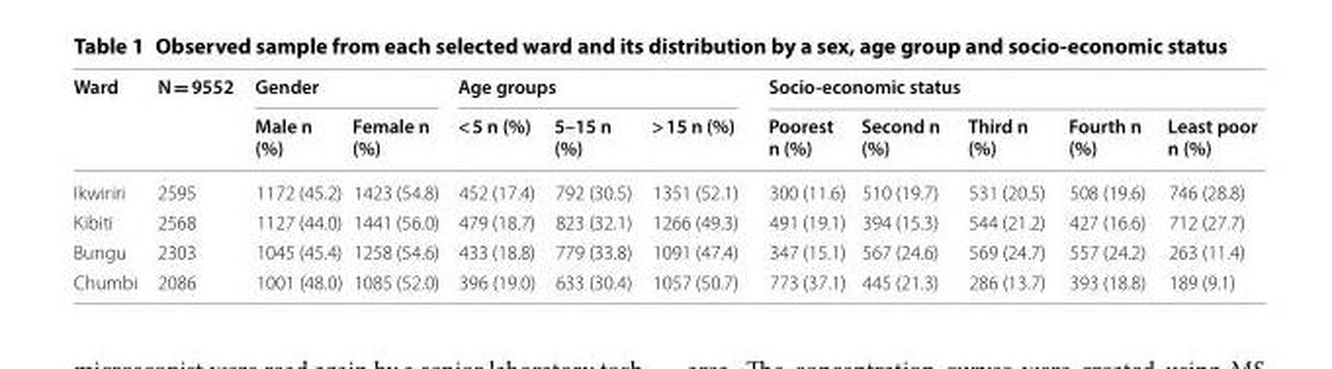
<table><thead><tr><td rowspan="2">Ward</td><td rowspan="2">N = 9552</td><td colspan="2">Gender</td><td colspan="3">Age groups</td><td colspan="5">Socio-economic status</td></tr><tr><td>Male n (%)</td><td>Female n (%)</td><td>&lt; 5 n (%)</td><td>5–15 n (%)</td><td>&gt; 15 n (%)</td><td>Poorest n (%)</td><td>Second n (%)</td><td>Third n (%)</td><td>Fourth n (%)</td><td>Least poor n (%)</td></tr></thead><tbody><tr><td>Ikwiriri</td><td>2595</td><td>1172 (45.2)</td><td>1423 (54.8)</td><td>452 (17.4)</td><td>792 (30.5)</td><td>1351 (52.1)</td><td>300 (11.6)</td><td>510 (19.7)</td><td>531 (20.5)</td><td>508 (19.6)</td><td>746 (28.8)</td></tr><tr><td>Kibiti</td><td>2568</td><td>1127 (44.0)</td><td>1441 (56.0)</td><td>479 (18.7)</td><td>823 (32.1)</td><td>1266 (49.3)</td><td>491 (19.1)</td><td>394 (15.3)</td><td>544 (21.2)</td><td>427 (16.6)</td><td>712 (27.7)</td></tr><tr><td>Bungu</td><td>2303</td><td>1045 (45.4)</td><td>1258 (54.6)</td><td>433 (18.8)</td><td>779 (33.8)</td><td>1091 (47.4)</td><td>347 (15.1)</td><td>567 (24.6)</td><td>569 (24.7)</td><td>557 (24.2)</td><td>263 (11.4)</td></tr><tr><td>Chumbi</td><td>2086</td><td>1001 (48.0)</td><td>1085 (52.0)</td><td>396 (19.0)</td><td>633 (30.4)</td><td>1057 (50.7)</td><td>773 (37.1)</td><td>445 (21.3)</td><td>286 (13.7)</td><td>393 (18.8)</td><td>189 (9.1)</td></tr></tbody></table>